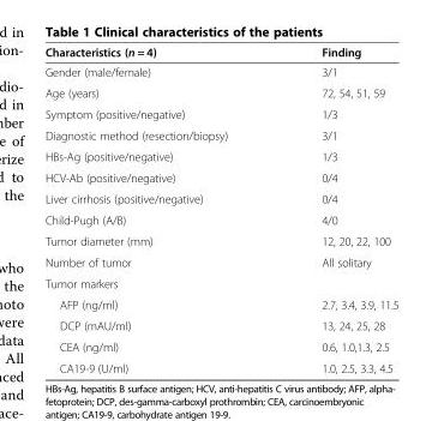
<table><thead><tr><td>Characteristics (n = 4)</td><td>Finding</td></tr></thead><tbody><tr><td>Gender (male/female)</td><td>3/1</td></tr><tr><td>Age (years)</td><td>72, 54, 51, 59</td></tr><tr><td>Symptom (positive/negative)</td><td>1/3</td></tr><tr><td>Diagnostic method (resection/biopsy)</td><td>3/1</td></tr><tr><td>HBs-Ag (positive/negative)</td><td>1/3</td></tr><tr><td>HCV-Ab (positive/negative)</td><td>0/4</td></tr><tr><td>Liver cirrhosis (positive/negative)</td><td>0/4</td></tr><tr><td>Child-Pugh (A/B)</td><td>4/0</td></tr><tr><td>Tumor diameter (mm)</td><td>12, 20, 22, 100</td></tr><tr><td>Number of tumor</td><td>All solitary</td></tr><tr><td colspan="2">Tumor markers</td></tr><tr><td>AFP (ng/ml)</td><td>2.7, 3.4, 3.9, 11.5</td></tr><tr><td>DCP (mAU/ml)</td><td>13, 24, 25, 28</td></tr><tr><td>CEA (ng/ml)</td><td>0.6, 1.0,1.3, 2.5</td></tr><tr><td>CA19-9 (U/ml)</td><td>1.0, 2.5, 3.3, 4.5</td></tr></tbody></table>